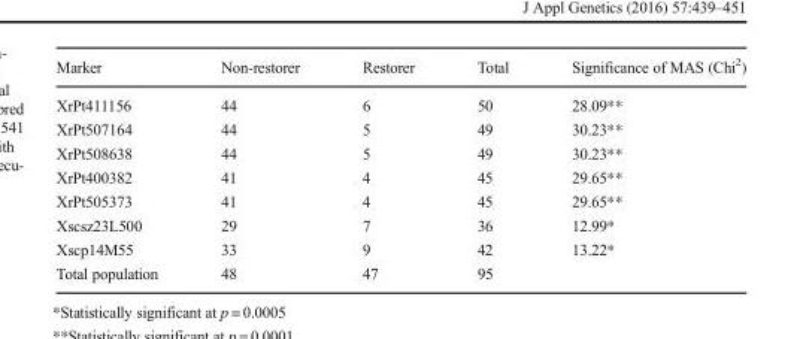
<table><thead><tr><td>Marker</td><td>Non-restorer</td><td>Restorer</td><td>Total</td><td>Significance of MAS (Chi<sup>2</sup>)</td></tr></thead><tbody><tr><td>XrPt411156</td><td>44</td><td>6</td><td>50</td><td>28.09**</td></tr><tr><td>XrPt507164</td><td>44</td><td>5</td><td>49</td><td>30.23**</td></tr><tr><td>XrPt508638</td><td>44</td><td>5</td><td>49</td><td>30.23**</td></tr><tr><td>XrPt400382</td><td>41</td><td>4</td><td>45</td><td>29.65**</td></tr><tr><td>XrPt505373</td><td>41</td><td>4</td><td>45</td><td>29.65**</td></tr><tr><td>Xscsz23L500</td><td>29</td><td>7</td><td>36</td><td>12.99*</td></tr><tr><td>Xscp14M55</td><td>33</td><td>9</td><td>42</td><td>13.22*</td></tr><tr><td>Total population</td><td>48</td><td>47</td><td>95</td><td></td></tr></tbody></table>